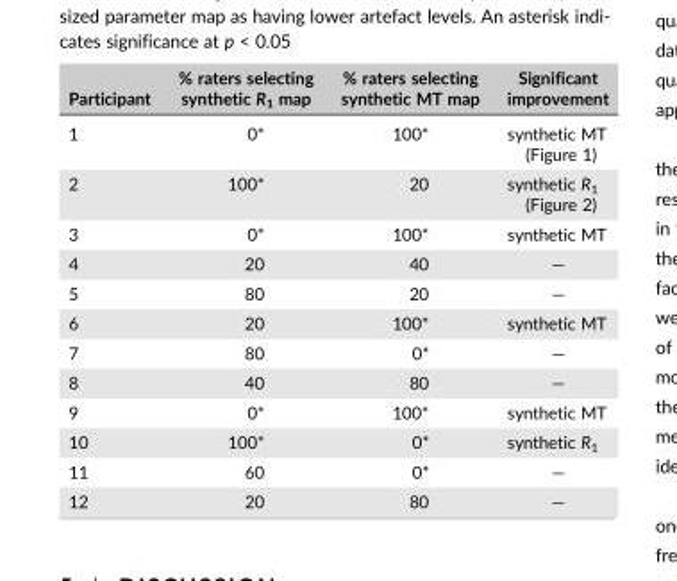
<table><thead><tr><td>Participant</td><td>% raters selecting synthetic R<sub>1</sub> map</td><td>% raters selecting synthetic MT map</td><td>Significant improvement</td></tr></thead><tbody><tr><td>1</td><td>0*</td><td>100*</td><td>synthetic MT (Figure 1)</td></tr><tr><td>2</td><td>100*</td><td>20</td><td>synthetic R<sub>1</sub> (Figure 2)</td></tr><tr><td>3</td><td>0*</td><td>100*</td><td>synthetic MT</td></tr><tr><td>4</td><td>20</td><td>40</td><td>—</td></tr><tr><td>5</td><td>80</td><td>20</td><td>—</td></tr><tr><td>6</td><td>20</td><td>100*</td><td>synthetic MT</td></tr><tr><td>7</td><td>80</td><td>0*</td><td>—</td></tr><tr><td>8</td><td>40</td><td>80</td><td>—</td></tr><tr><td>9</td><td>0*</td><td>100*</td><td>synthetic MT</td></tr><tr><td>10</td><td>100*</td><td>0*</td><td>synthetic R<sub>1</sub></td></tr><tr><td>11</td><td>60</td><td>0*</td><td>—</td></tr><tr><td>12</td><td>20</td><td>80</td><td>—</td></tr></tbody></table>